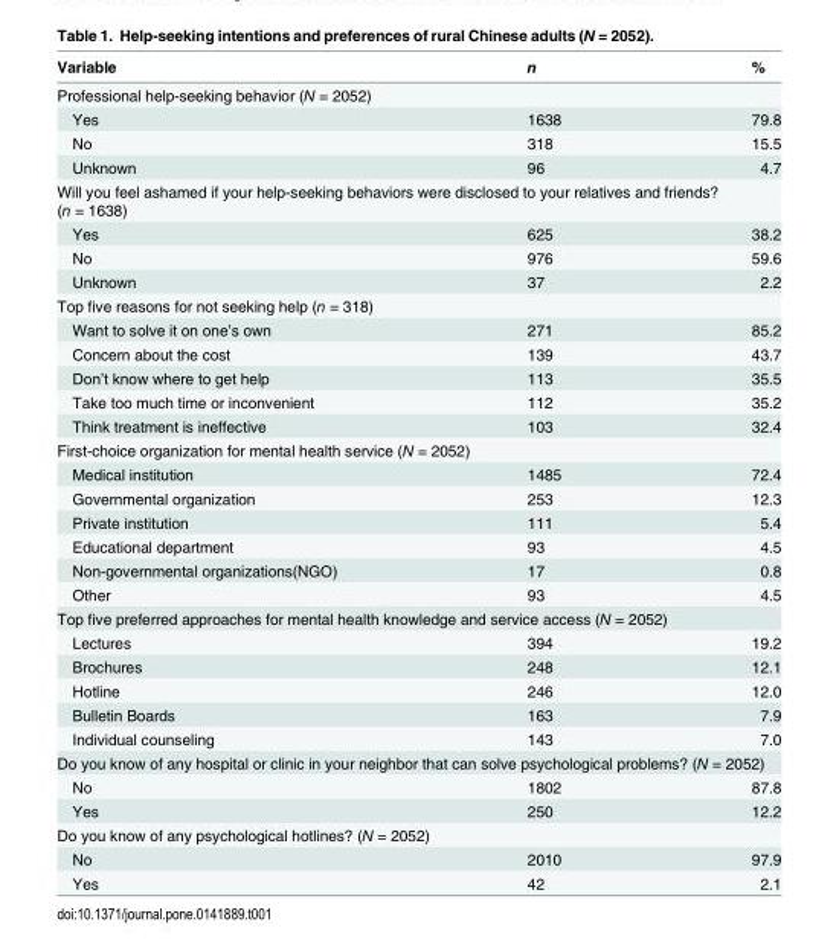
<table><thead><tr><td>Variable</td><td>n</td><td>%</td></tr></thead><tbody><tr><td colspan="3">Professional help-seeking behavior (N = 2052)</td></tr><tr><td>Yes</td><td>1638</td><td>79.8</td></tr><tr><td>No</td><td>318</td><td>15.5</td></tr><tr><td>Unknown</td><td>96</td><td>4.7</td></tr><tr><td colspan="3">Will you feel ashamed if your help-seeking behaviors were disclosed to your relatives and friends? (n = 1638)</td></tr><tr><td>Yes</td><td>625</td><td>38.2</td></tr><tr><td>No</td><td>976</td><td>59.6</td></tr><tr><td>Unknown</td><td>37</td><td>2.2</td></tr><tr><td colspan="3">Top five reasons for not seeking help (n = 318)</td></tr><tr><td>Want to solve it on one’s own</td><td>271</td><td>85.2</td></tr><tr><td>Concern about the cost</td><td>139</td><td>43.7</td></tr><tr><td>Don’t know where to get help</td><td>113</td><td>35.5</td></tr><tr><td>Take too much time or inconvenient</td><td>112</td><td>35.2</td></tr><tr><td>Think treatment is ineffective</td><td>103</td><td>32.4</td></tr><tr><td colspan="3">First-choice organization for mental health service (N = 2052)</td></tr><tr><td>Medical institution</td><td>1485</td><td>72.4</td></tr><tr><td>Governmental organization</td><td>253</td><td>12.3</td></tr><tr><td>Private institution</td><td>111</td><td>5.4</td></tr><tr><td>Educational department</td><td>93</td><td>4.5</td></tr><tr><td>Non-governmental organizations(NGO)</td><td>17</td><td>0.8</td></tr><tr><td>Other</td><td>93</td><td>4.5</td></tr><tr><td colspan="3">Top five preferred approaches for mental health knowledge and service access (N = 2052)</td></tr><tr><td>Lectures</td><td>394</td><td>19.2</td></tr><tr><td>Brochures</td><td>248</td><td>12.1</td></tr><tr><td>Hotline</td><td>246</td><td>12.0</td></tr><tr><td>Bulletin Boards</td><td>163</td><td>7.9</td></tr><tr><td>Individual counseling</td><td>143</td><td>7.0</td></tr><tr><td colspan="3">Do you know of any hospital or clinic in your neighbor that can solve psychological problems? (N = 2052)</td></tr><tr><td>No</td><td>1802</td><td>87.8</td></tr><tr><td>Yes</td><td>250</td><td>12.2</td></tr><tr><td colspan="3">Do you know of any psychological hotlines? (N = 2052)</td></tr><tr><td>No</td><td>2010</td><td>97.9</td></tr><tr><td>Yes</td><td>42</td><td>2.1</td></tr></tbody></table>